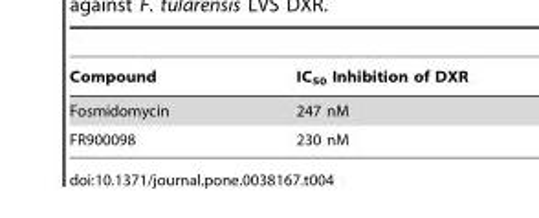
<table><thead><tr><td>Compound</td><td>IC<sub>50</sub> Inhibition of DXR</td></tr></thead><tbody><tr><td>Fosmidomycin</td><td>247 nM</td></tr><tr><td>FR900098</td><td>230 nM</td></tr></tbody></table>